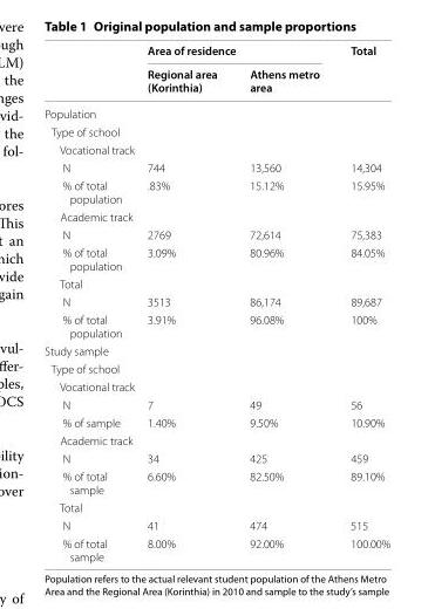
<table><thead><tr><td rowspan="2"></td><td colspan="2">Area of residence</td><td rowspan="2">Total</td></tr><tr><td>Regional area (Korinthia)</td><td>Athens metro area</td></tr></thead><tbody><tr><td colspan="4">Population</td></tr><tr><td colspan="4">Type of school</td></tr><tr><td colspan="4">Vocational track</td></tr><tr><td>N</td><td>744</td><td>13,560</td><td>14,304</td></tr><tr><td>% of total population</td><td>.83%</td><td>15.12%</td><td>15.95%</td></tr><tr><td colspan="4">Academic track</td></tr><tr><td>N</td><td>2769</td><td>72,614</td><td>75,383</td></tr><tr><td>% of total population</td><td>3.09%</td><td>80.96%</td><td>84.05%</td></tr><tr><td colspan="4">Total</td></tr><tr><td>N</td><td>3513</td><td>86,174</td><td>89,687</td></tr><tr><td>% of total population</td><td>3.91%</td><td>96.08%</td><td>100%</td></tr><tr><td colspan="4">Study sample</td></tr><tr><td colspan="4">Type of school</td></tr><tr><td colspan="4">Vocational track</td></tr><tr><td>N</td><td>7</td><td>49</td><td>56</td></tr><tr><td>% of sample</td><td>1.40%</td><td>9.50%</td><td>10.90%</td></tr><tr><td colspan="4">Academic track</td></tr><tr><td>N</td><td>34</td><td>425</td><td>459</td></tr><tr><td>% of total sample</td><td>6.60%</td><td>82.50%</td><td>89.10%</td></tr><tr><td colspan="4">Total</td></tr><tr><td>N</td><td>41</td><td>474</td><td>515</td></tr><tr><td>% of total sample</td><td>8.00%</td><td>92.00%</td><td>100.00%</td></tr></tbody></table>